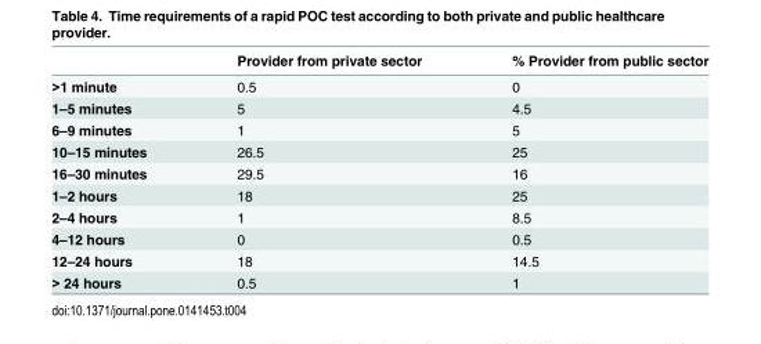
<table><thead><tr><td></td><td>Provider from private sector</td><td>% Provider from public sector</td></tr></thead><tbody><tr><td>&gt;1 minute</td><td>0.5</td><td>0</td></tr><tr><td>1–5 minutes</td><td>5</td><td>4.5</td></tr><tr><td>6–9 minutes</td><td>1</td><td>5</td></tr><tr><td>10–15 minutes</td><td>26.5</td><td>25</td></tr><tr><td>16–30 minutes</td><td>29.5</td><td>16</td></tr><tr><td>1–2 hours</td><td>18</td><td>25</td></tr><tr><td>2–4 hours</td><td>1</td><td>8.5</td></tr><tr><td>4–12 hours</td><td>0</td><td>0.5</td></tr><tr><td>12–24 hours</td><td>18</td><td>14.5</td></tr><tr><td>&gt; 24 hours</td><td>0.5</td><td>1</td></tr></tbody></table>